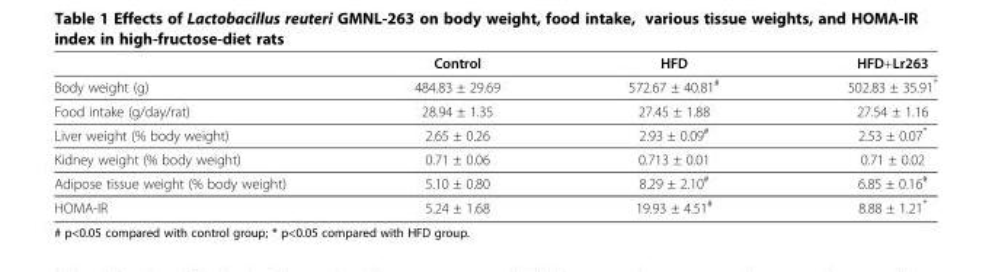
<table><thead><tr><td></td><td>Control</td><td>HFD</td><td>HFD+Lr263</td></tr></thead><tbody><tr><td>Body weight (g)</td><td>484.83 ± 29.69</td><td>572.67 ± 40.81<sup>#</sup></td><td>502.83 ± 35.91*</td></tr><tr><td>Food intake (g/day/rat)</td><td>28.94 ± 1.35</td><td>27.45 ± 1.88</td><td>27.54 ± 1.16</td></tr><tr><td>Liver weight (% body weight)</td><td>2.65 ± 0.26</td><td>2.93 ± 0.09<sup>#</sup></td><td>2.53 ± 0.07*</td></tr><tr><td>Kidney weight (% body weight)</td><td>0.71 ± 0.06</td><td>0.713 ± 0.01</td><td>0.71 ± 0.02</td></tr><tr><td>Adipose tissue weight (% body weight)</td><td>5.10 ± 0.80</td><td>8.29 ± 2.10<sup>#</sup></td><td>6.85 ± 0.16<sup>#</sup></td></tr><tr><td>HOMA-IR</td><td>5.24 ± 1.68</td><td>19.93 ± 4.51<sup>#</sup></td><td>8.88 ± 1.21*</td></tr></tbody></table>